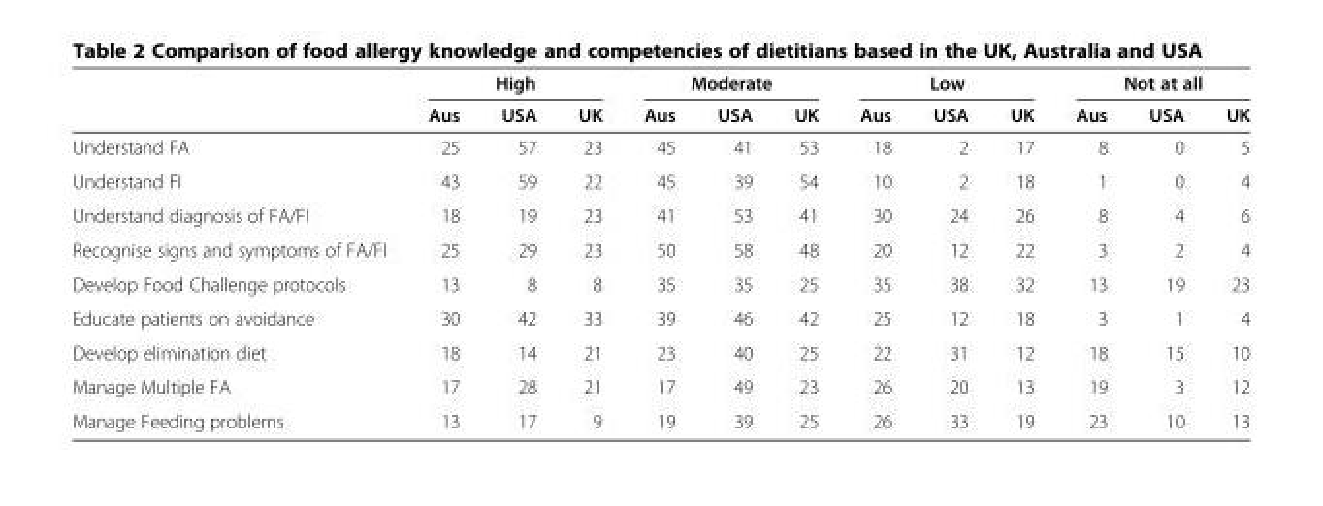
<table><thead><tr><td rowspan="2"></td><td colspan="3">High</td><td colspan="3">Moderate</td><td colspan="3">Low</td><td colspan="3">Not at all</td></tr><tr><td>Aus</td><td>USA</td><td>UK</td><td>Aus</td><td>USA</td><td>UK</td><td>Aus</td><td>USA</td><td>UK</td><td>Aus</td><td>USA</td><td>UK</td></tr></thead><tbody><tr><td>Understand FA</td><td>25</td><td>57</td><td>23</td><td>45</td><td>41</td><td>53</td><td>18</td><td>2</td><td>17</td><td>8</td><td>0</td><td>5</td></tr><tr><td>Understand FI</td><td>43</td><td>59</td><td>22</td><td>45</td><td>39</td><td>54</td><td>10</td><td>2</td><td>18</td><td>1</td><td>0</td><td>4</td></tr><tr><td>Understand diagnosis of FA/FI</td><td>18</td><td>19</td><td>23</td><td>41</td><td>53</td><td>41</td><td>30</td><td>24</td><td>26</td><td>8</td><td>4</td><td>6</td></tr><tr><td>Recognise signs and symptoms of FA/FI</td><td>25</td><td>29</td><td>23</td><td>50</td><td>58</td><td>48</td><td>20</td><td>12</td><td>22</td><td>3</td><td>2</td><td>4</td></tr><tr><td>Develop Food Challenge protocols</td><td>13</td><td>8</td><td>8</td><td>35</td><td>35</td><td>25</td><td>35</td><td>38</td><td>32</td><td>13</td><td>19</td><td>23</td></tr><tr><td>Educate patients on avoidance</td><td>30</td><td>42</td><td>33</td><td>39</td><td>46</td><td>42</td><td>25</td><td>12</td><td>18</td><td>3</td><td>1</td><td>4</td></tr><tr><td>Develop elimination diet</td><td>18</td><td>14</td><td>21</td><td>23</td><td>40</td><td>25</td><td>22</td><td>31</td><td>12</td><td>18</td><td>15</td><td>10</td></tr><tr><td>Manage Multiple FA</td><td>17</td><td>28</td><td>21</td><td>17</td><td>49</td><td>23</td><td>26</td><td>20</td><td>13</td><td>19</td><td>3</td><td>12</td></tr><tr><td>Manage Feeding problems</td><td>13</td><td>17</td><td>9</td><td>19</td><td>39</td><td>25</td><td>26</td><td>33</td><td>19</td><td>23</td><td>10</td><td>13</td></tr></tbody></table>